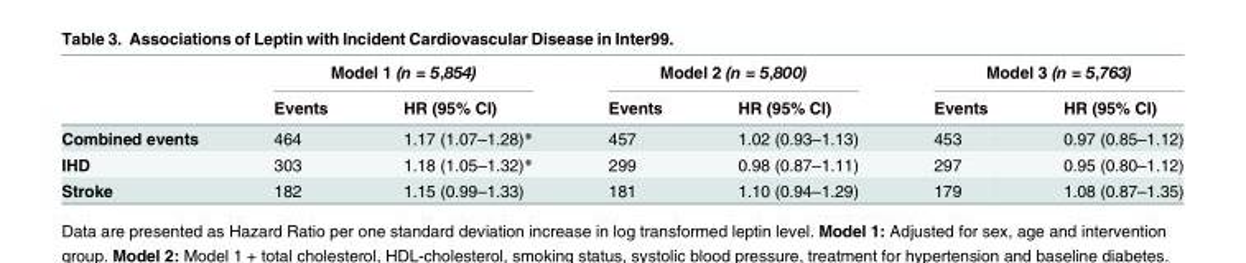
<table><thead><tr><td rowspan="2"></td><td colspan="2">Model 1 (n = 5,854)</td><td colspan="2">Model 2 (n = 5,800)</td><td colspan="2">Model 3 (n = 5,763)</td></tr><tr><td>Events</td><td>HR (95% CI)</td><td>Events</td><td>HR (95% CI)</td><td>Events</td><td>HR (95% CI)</td></tr></thead><tbody><tr><td>Combined events</td><td>464</td><td>1.17 (1.07–1.28)*</td><td>457</td><td>1.02 (0.93–1.13)</td><td>453</td><td>0.97 (0.85–1.12)</td></tr><tr><td>IHD</td><td>303</td><td>1.18 (1.05–1.32)*</td><td>299</td><td>0.98 (0.87–1.11)</td><td>297</td><td>0.95 (0.80–1.12)</td></tr><tr><td>Stroke</td><td>182</td><td>1.15 (0.99–1.33)</td><td>181</td><td>1.10 (0.94–1.29)</td><td>179</td><td>1.08 (0.87–1.35)</td></tr></tbody></table>